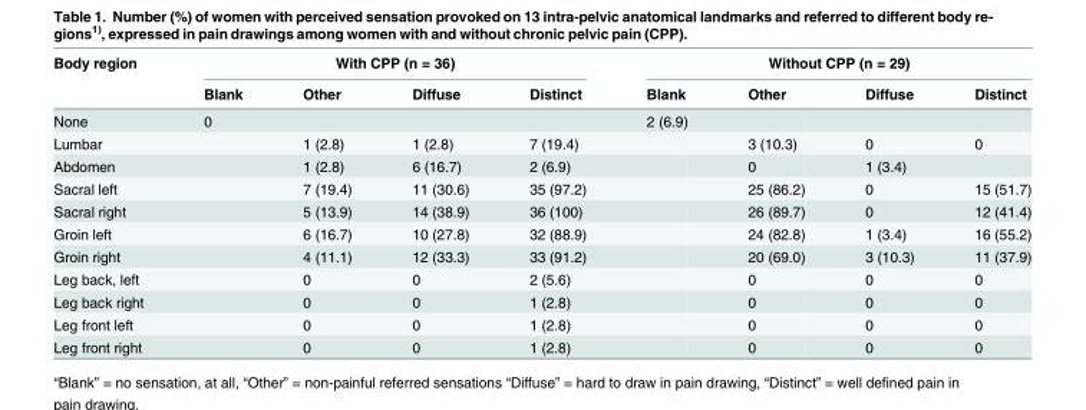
<table><thead><tr><td rowspan="2">Body region</td><td colspan="4">With CPP (n = 36)</td><td colspan="4">Without CPP (n = 29)</td></tr><tr><td>Blank</td><td>Other</td><td>Diffuse</td><td>Distinct</td><td>Blank</td><td>Other</td><td>Diffuse</td><td>Distinct</td></tr></thead><tbody><tr><td>None</td><td>0</td><td></td><td></td><td></td><td>2 (6.9)</td><td></td><td></td><td></td></tr><tr><td>Lumbar</td><td></td><td>1 (2.8)</td><td>1 (2.8)</td><td>7 (19.4)</td><td></td><td>3 (10.3)</td><td>0</td><td>0</td></tr><tr><td>Abdomen</td><td></td><td>1 (2.8)</td><td>6 (16.7)</td><td>2 (6.9)</td><td></td><td>0</td><td>1 (3.4)</td><td></td></tr><tr><td>Sacral left</td><td></td><td>7 (19.4)</td><td>11 (30.6)</td><td>35 (97.2)</td><td></td><td>25 (86.2)</td><td>0</td><td>15 (51.7)</td></tr><tr><td>Sacral right</td><td></td><td>5 (13.9)</td><td>14 (38.9)</td><td>36 (100)</td><td></td><td>26 (89.7)</td><td>0</td><td>12 (41.4)</td></tr><tr><td>Groin left</td><td></td><td>6 (16.7)</td><td>10 (27.8)</td><td>32 (88.9)</td><td></td><td>24 (82.8)</td><td>1 (3.4)</td><td>16 (55.2)</td></tr><tr><td>Groin right</td><td></td><td>4 (11.1)</td><td>12 (33.3)</td><td>33 (91.2)</td><td></td><td>20 (69.0)</td><td>3 (10.3)</td><td>11 (37.9)</td></tr><tr><td>Leg back, left</td><td></td><td>0</td><td>0</td><td>2 (5.6)</td><td></td><td>0</td><td>0</td><td>0</td></tr><tr><td>Leg back right</td><td></td><td>0</td><td>0</td><td>1 (2.8)</td><td></td><td>0</td><td>0</td><td>0</td></tr><tr><td>Leg front left</td><td></td><td>0</td><td>0</td><td>1 (2.8)</td><td></td><td>0</td><td>0</td><td>0</td></tr><tr><td>Leg front right</td><td></td><td>0</td><td>0</td><td>1 (2.8)</td><td></td><td>0</td><td>0</td><td>0</td></tr></tbody></table>